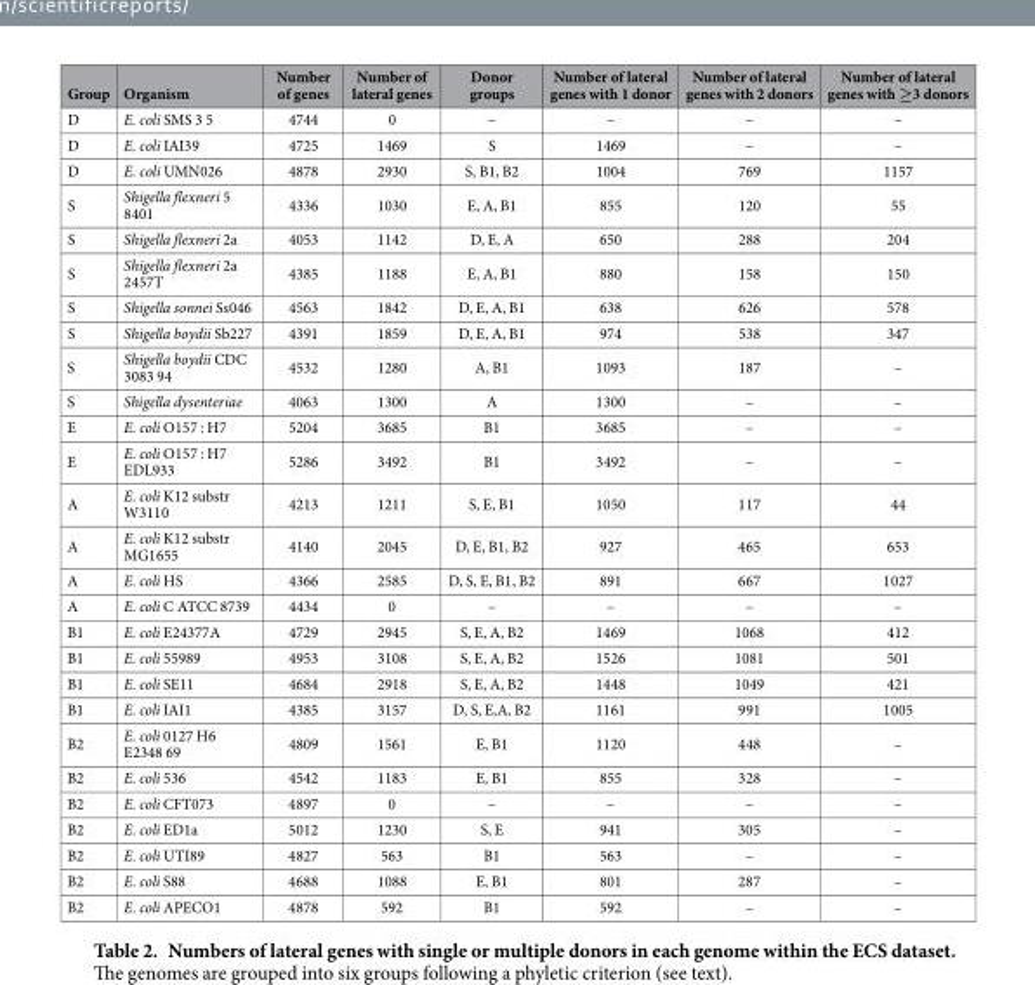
<table><thead><tr><td>Group</td><td>Organism</td><td>Number of genes</td><td>Number of lateral genes</td><td>Donor groups</td><td>Number of lateral genes with 1 donor</td><td>Number of lateral genes with 2 donors</td><td>Number of lateral genes with ≥3 donors</td></tr></thead><tbody><tr><td>D</td><td>E. coli SMS 3 5</td><td>4744</td><td>0</td><td>–</td><td>–</td><td>–</td><td>–</td></tr><tr><td>D</td><td>E. coli IAI39</td><td>4725</td><td>1469</td><td>S</td><td>1469</td><td>–</td><td>–</td></tr><tr><td>D</td><td>E. coli UMN026</td><td>4878</td><td>2930</td><td>S, B1, B2</td><td>1004</td><td>769</td><td>1157</td></tr><tr><td>S</td><td>Shigella flexneri 5 8401</td><td>4336</td><td>1030</td><td>E, A, B1</td><td>855</td><td>120</td><td>55</td></tr><tr><td>S</td><td>Shigella flexneri 2a</td><td>4053</td><td>1142</td><td>D, E, A</td><td>650</td><td>288</td><td>204</td></tr><tr><td>S</td><td>Shigella flexneri 2a 2457T</td><td>4385</td><td>1188</td><td>E, A, B1</td><td>880</td><td>158</td><td>150</td></tr><tr><td>S</td><td>Shigella sonnei Ss046</td><td>4563</td><td>1842</td><td>D, E, A, B1</td><td>638</td><td>626</td><td>578</td></tr><tr><td>S</td><td>Shigella boydii Sb227</td><td>4391</td><td>1859</td><td>D, E, A, B1</td><td>974</td><td>538</td><td>347</td></tr><tr><td>S</td><td>Shigella boydii CDC 3083 94</td><td>4532</td><td>1280</td><td>A, B1</td><td>1093</td><td>187</td><td>–</td></tr><tr><td>S</td><td>Shigella dysenteriae</td><td>4063</td><td>1300</td><td>A</td><td>1300</td><td>–</td><td>–</td></tr><tr><td>E</td><td>E. coli O157 : H7</td><td>5204</td><td>3685</td><td>B1</td><td>3685</td><td>–</td><td>–</td></tr><tr><td>E</td><td>E. coli O157 : H7 EDL933</td><td>5286</td><td>3492</td><td>B1</td><td>3492</td><td>–</td><td>–</td></tr><tr><td>A</td><td>E. coli K12 substr W3110</td><td>4213</td><td>1211</td><td>S, E, B1</td><td>1050</td><td>117</td><td>44</td></tr><tr><td>A</td><td>E. coli K12 substr MG1655</td><td>4140</td><td>2045</td><td>D, E, B1, B2</td><td>927</td><td>465</td><td>653</td></tr><tr><td>A</td><td>E. coli HS</td><td>4366</td><td>2585</td><td>D, S, E, B1, B2</td><td>891</td><td>667</td><td>1027</td></tr><tr><td>A</td><td>E. coli C ATCC 8739</td><td>4434</td><td>0</td><td>–</td><td>–</td><td>–</td><td>–</td></tr><tr><td>B1</td><td>E. coli E24377A</td><td>4729</td><td>2945</td><td>S, E, A, B2</td><td>1469</td><td>1068</td><td>412</td></tr><tr><td>B1</td><td>E. coli 55989</td><td>4953</td><td>3108</td><td>S, E, A, B2</td><td>1526</td><td>1081</td><td>501</td></tr><tr><td>B1</td><td>E. coli SE11</td><td>4684</td><td>2918</td><td>S, E, A, B2</td><td>1448</td><td>1049</td><td>421</td></tr><tr><td>B1</td><td>E. coli IAI1</td><td>4385</td><td>3157</td><td>D, S, E,A, B2</td><td>1161</td><td>991</td><td>1005</td></tr><tr><td>B2</td><td>E. coli 0127 H6 E2348 69</td><td>4809</td><td>1561</td><td>E, B1</td><td>1120</td><td>448</td><td>–</td></tr><tr><td>B2</td><td>E. coli 536</td><td>4542</td><td>1183</td><td>E, B1</td><td>855</td><td>328</td><td>–</td></tr><tr><td>B2</td><td>E. coli CFT073</td><td>4897</td><td>0</td><td>–</td><td>–</td><td>–</td><td>–</td></tr><tr><td>B2</td><td>E. coli ED1a</td><td>5012</td><td>1230</td><td>S, E</td><td>941</td><td>305</td><td>–</td></tr><tr><td>B2</td><td>E. coli UTI89</td><td>4827</td><td>563</td><td>B1</td><td>563</td><td>–</td><td>–</td></tr><tr><td>B2</td><td>E. coli S88</td><td>4688</td><td>1088</td><td>E, B1</td><td>801</td><td>287</td><td>–</td></tr><tr><td>B2</td><td>E. coli APECO1</td><td>4878</td><td>592</td><td>B1</td><td>592</td><td>–</td><td>–</td></tr></tbody></table>